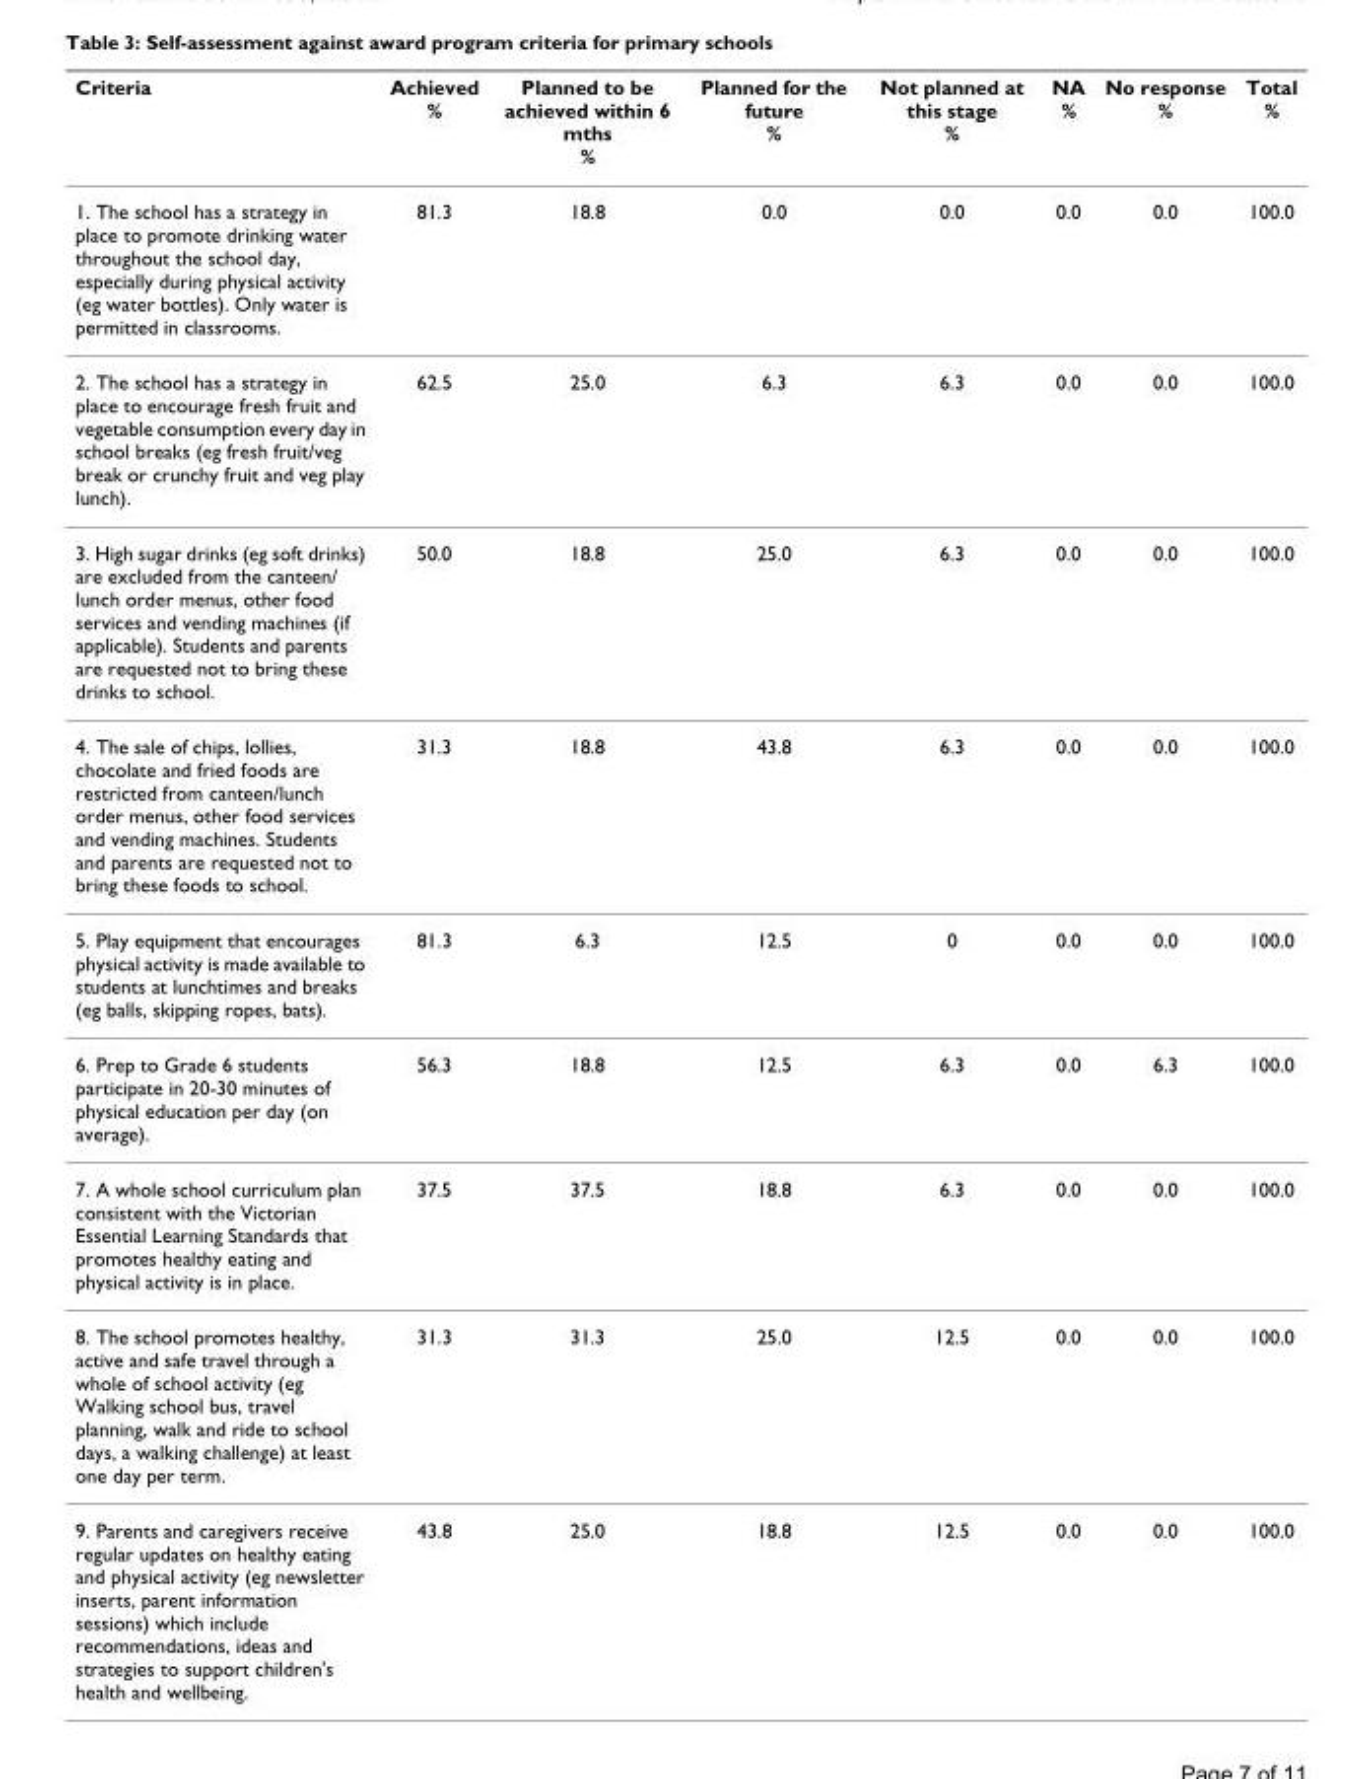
<table><thead><tr><td>Criteria</td><td>Achieved %</td><td>Planned to be achieved within 6 mths %</td><td>Planned for the future %</td><td>Not planned at this stage %</td><td>NA %</td><td>No response %</td><td>Total %</td></tr></thead><tbody><tr><td>1. The school has a strategy in place to promote drinking water throughout the school day, especially during physical activity (eg water bottles). Only water is permitted in classrooms.</td><td>81.3</td><td>18.8</td><td>0.0</td><td>0.0</td><td>0.0</td><td>0.0</td><td>100.0</td></tr><tr><td>2. The school has a strategy in place to encourage fresh fruit and vegetable consumption every day in school breaks (eg fresh fruit/veg break or crunchy fruit and veg play lunch).</td><td>62.5</td><td>25.0</td><td>6.3</td><td>6.3</td><td>0.0</td><td>0.0</td><td>100.0</td></tr><tr><td>3. High sugar drinks (eg soft drinks) are excluded from the canteen/ lunch order menus, other food services and vending machines (if applicable). Students and parents are requested not to bring these drinks to school.</td><td>50.0</td><td>18.8</td><td>25.0</td><td>6.3</td><td>0.0</td><td>0.0</td><td>100.0</td></tr><tr><td>4. The sale of chips, lollies, chocolate and fried foods are restricted from canteen/lunch order menus, other food services and vending machines. Students and parents are requested not to bring these foods to school.</td><td>31.3</td><td>18.8</td><td>43.8</td><td>6.3</td><td>0.0</td><td>0.0</td><td>100.0</td></tr><tr><td>5. Play equipment that encourages physical activity is made available to students at lunchtimes and breaks (eg balls, skipping ropes, bats).</td><td>81.3</td><td>6.3</td><td>12.5</td><td>0</td><td>0.0</td><td>0.0</td><td>100.0</td></tr><tr><td>6. Prep to Grade 6 students participate in 20-30 minutes of physical education per day (on average).</td><td>56.3</td><td>18.8</td><td>12.5</td><td>6.3</td><td>0.0</td><td>6.3</td><td>100.0</td></tr><tr><td>7. A whole school curriculum plan consistent with the Victorian Essential Learning Standards that promotes healthy eating and physical activity is in place.</td><td>37.5</td><td>37.5</td><td>18.8</td><td>6.3</td><td>0.0</td><td>0.0</td><td>100.0</td></tr><tr><td>8. The school promotes healthy, active and safe travel through a whole of school activity (eg Walking school bus, travel planning, walk and ride to school days, a walking challenge) at least one day per term.</td><td>31.3</td><td>31.3</td><td>25.0</td><td>12.5</td><td>0.0</td><td>0.0</td><td>100.0</td></tr><tr><td>9. Parents and caregivers receive regular updates on healthy eating and physical activity (eg newsletter inserts, parent information sessions) which include recommendations, ideas and strategies to support children&#x27;s health and wellbeing.</td><td>43.8</td><td>25.0</td><td>18.8</td><td>12.5</td><td>0.0</td><td>0.0</td><td>100.0</td></tr></tbody></table>